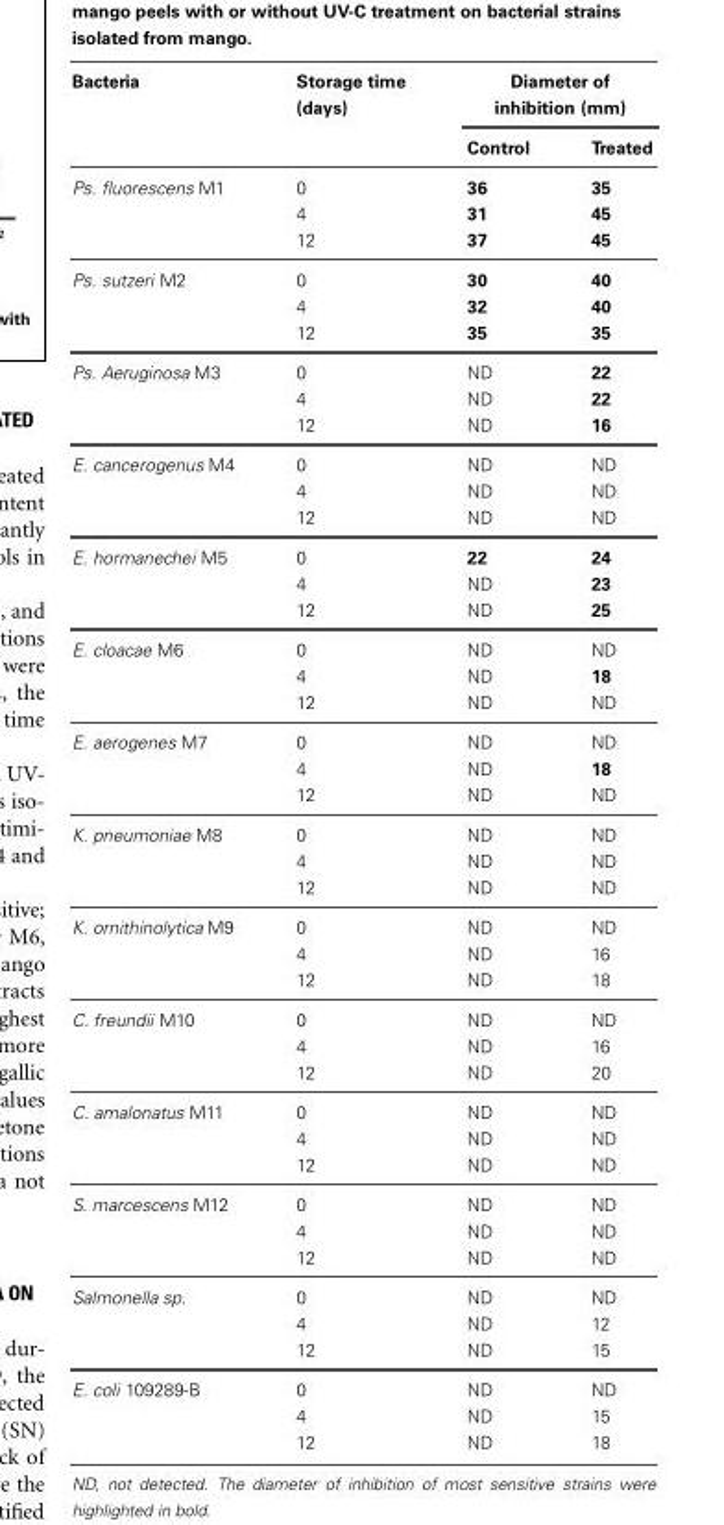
<table><thead><tr><td rowspan="2">Bacteria</td><td rowspan="2">Storage time (days)</td><td colspan="2">Diameter of inhibition (mm)</td></tr><tr><td>Control</td><td>Treated</td></tr></thead><tbody><tr><td rowspan="3">Ps. fluorescens M1</td><td>0</td><td>36</td><td>35</td></tr><tr><td>4</td><td>31</td><td>45</td></tr><tr><td>12</td><td>37</td><td>45</td></tr><tr><td rowspan="3">Ps. sutzeri M2</td><td>0</td><td>30</td><td>40</td></tr><tr><td>4</td><td>32</td><td>40</td></tr><tr><td>12</td><td>35</td><td>35</td></tr><tr><td rowspan="3">Ps. Aeruginosa M3</td><td>0</td><td>ND</td><td>22</td></tr><tr><td>4</td><td>ND</td><td>22</td></tr><tr><td>12</td><td>ND</td><td>16</td></tr><tr><td rowspan="3">E. cancerogenus M4</td><td>0</td><td>ND</td><td>ND</td></tr><tr><td>4</td><td>ND</td><td>ND</td></tr><tr><td>12</td><td>ND</td><td>ND</td></tr><tr><td rowspan="3">E. hormanechei M5</td><td>0</td><td>22</td><td>24</td></tr><tr><td>4</td><td>ND</td><td>23</td></tr><tr><td>12</td><td>ND</td><td>25</td></tr><tr><td rowspan="3">E. cloacae M6</td><td>0</td><td>ND</td><td>ND</td></tr><tr><td>4</td><td>ND</td><td>18</td></tr><tr><td>12</td><td>ND</td><td>ND</td></tr><tr><td rowspan="3">E. aerogenes M7</td><td>0</td><td>ND</td><td>ND</td></tr><tr><td>4</td><td>ND</td><td>18</td></tr><tr><td>12</td><td>ND</td><td>ND</td></tr><tr><td rowspan="3">K. pneumoniae M8</td><td>0</td><td>ND</td><td>ND</td></tr><tr><td>4</td><td>ND</td><td>ND</td></tr><tr><td>12</td><td>ND</td><td>ND</td></tr><tr><td rowspan="3">K. ornithinolytica M9</td><td>0</td><td>ND</td><td>ND</td></tr><tr><td>4</td><td>ND</td><td>16</td></tr><tr><td>12</td><td>ND</td><td>18</td></tr><tr><td rowspan="3">C. freundii M10</td><td>0</td><td>ND</td><td>ND</td></tr><tr><td>4</td><td>ND</td><td>16</td></tr><tr><td>12</td><td>ND</td><td>20</td></tr><tr><td rowspan="3">C. amalonatus M11</td><td>0</td><td>ND</td><td>ND</td></tr><tr><td>4</td><td>ND</td><td>ND</td></tr><tr><td>12</td><td>ND</td><td>ND</td></tr><tr><td rowspan="3">S. marcescens M12</td><td>0</td><td>ND</td><td>ND</td></tr><tr><td>4</td><td>ND</td><td>ND</td></tr><tr><td>12</td><td>ND</td><td>ND</td></tr><tr><td rowspan="3">Salmonella sp.</td><td>0</td><td>ND</td><td>ND</td></tr><tr><td>4</td><td>ND</td><td>12</td></tr><tr><td>12</td><td>ND</td><td>15</td></tr><tr><td rowspan="3">E. coli 109289-B</td><td>0</td><td>ND</td><td>ND</td></tr><tr><td>4</td><td>ND</td><td>15</td></tr><tr><td>12</td><td>ND</td><td>18</td></tr></tbody></table>